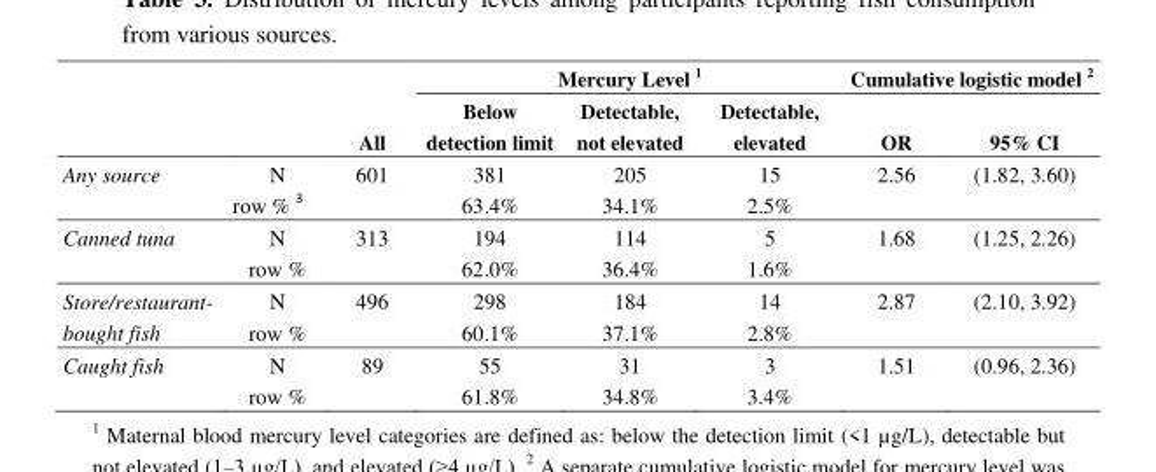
<table><thead><tr><td rowspan="2"></td><td rowspan="2"></td><td rowspan="2">All</td><td colspan="3">Mercury Level 1</td><td colspan="2">Cumulative logistic model 2</td></tr><tr><td>Below detection limit</td><td>Detectable, not elevated</td><td>Detectable, elevated</td><td>OR</td><td>95% CI</td></tr></thead><tbody><tr><td rowspan="2">Any source</td><td>N</td><td>601</td><td>381</td><td>205</td><td>15</td><td>2.56</td><td>(1.82, 3.60)</td></tr><tr><td>row % 3</td><td></td><td>63.4%</td><td>34.1%</td><td>2.5%</td><td></td><td></td></tr><tr><td rowspan="2">Canned tuna</td><td>N</td><td>313</td><td>194</td><td>114</td><td>5</td><td>1.68</td><td>(1.25, 2.26)</td></tr><tr><td>row %</td><td></td><td>62.0%</td><td>36.4%</td><td>1.6%</td><td></td><td></td></tr><tr><td rowspan="2">Store/restaurant- bought fish</td><td>N</td><td>496</td><td>298</td><td>184</td><td>14</td><td>2.87</td><td>(2.10, 3.92)</td></tr><tr><td>row %</td><td></td><td>60.1%</td><td>37.1%</td><td>2.8%</td><td></td><td></td></tr><tr><td rowspan="2">Caught fish</td><td>N</td><td>89</td><td>55</td><td>31</td><td>3</td><td>1.51</td><td>(0.96, 2.36)</td></tr><tr><td>row %</td><td></td><td>61.8%</td><td>34.8%</td><td>3.4%</td><td></td><td></td></tr></tbody></table>